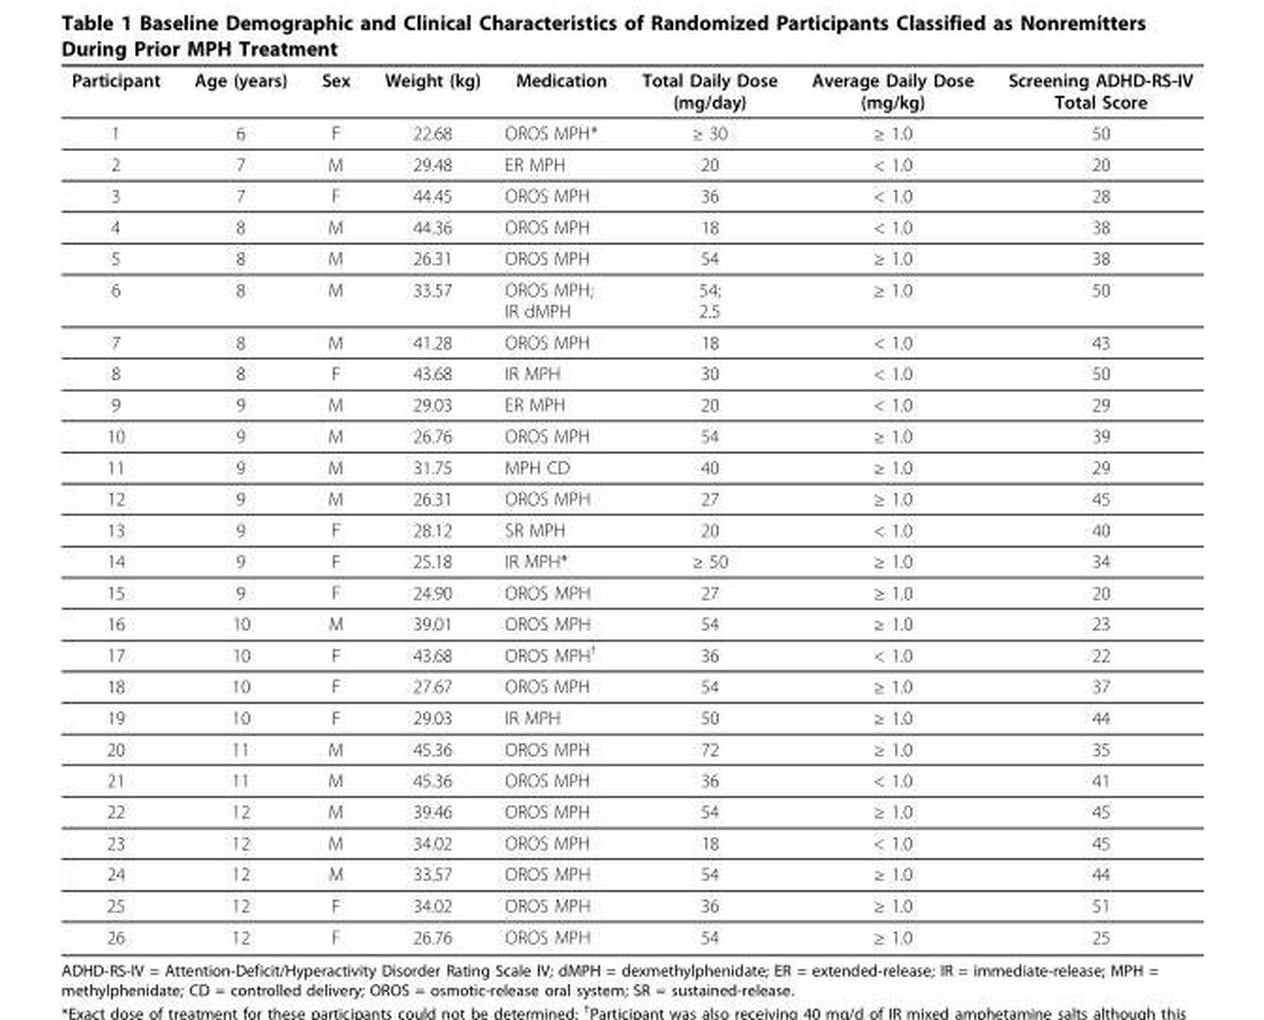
<table><thead><tr><td>Participant</td><td>Age (years)</td><td>Sex</td><td>Weight (kg)</td><td>Medication</td><td>Total Daily Dose (mg/day)</td><td>Average Daily Dose (mg/kg)</td><td>Screening ADHD-RS-IV Total Score</td></tr></thead><tbody><tr><td>1</td><td>6</td><td>F</td><td>22.68</td><td>OROS MPH*</td><td>≥ 30</td><td>≥ 1.0</td><td>50</td></tr><tr><td>2</td><td>7</td><td>M</td><td>29.48</td><td>ER MPH</td><td>20</td><td>&lt; 1.0</td><td>20</td></tr><tr><td>3</td><td>7</td><td>F</td><td>44.45</td><td>OROS MPH</td><td>36</td><td>&lt; 1.0</td><td>28</td></tr><tr><td>4</td><td>8</td><td>M</td><td>44.36</td><td>OROS MPH</td><td>18</td><td>&lt; 1.0</td><td>38</td></tr><tr><td>5</td><td>8</td><td>M</td><td>26.31</td><td>OROS MPH</td><td>54</td><td>≥ 1.0</td><td>38</td></tr><tr><td>6</td><td>8</td><td>M</td><td>33.57</td><td>OROS MPH; IR dMPH</td><td>54; 2.5</td><td>≥ 1.0</td><td>50</td></tr><tr><td>7</td><td>8</td><td>M</td><td>41.28</td><td>OROS MPH</td><td>18</td><td>&lt; 1.0</td><td>43</td></tr><tr><td>8</td><td>8</td><td>F</td><td>43.68</td><td>IR MPH</td><td>30</td><td>&lt; 1.0</td><td>50</td></tr><tr><td>9</td><td>9</td><td>M</td><td>29.03</td><td>ER MPH</td><td>20</td><td>&lt; 1.0</td><td>29</td></tr><tr><td>10</td><td>9</td><td>M</td><td>26.76</td><td>OROS MPH</td><td>54</td><td>≥ 1.0</td><td>39</td></tr><tr><td>11</td><td>9</td><td>M</td><td>31.75</td><td>MPH CD</td><td>40</td><td>≥ 1.0</td><td>29</td></tr><tr><td>12</td><td>9</td><td>M</td><td>26.31</td><td>OROS MPH</td><td>27</td><td>≥ 1.0</td><td>45</td></tr><tr><td>13</td><td>9</td><td>F</td><td>28.12</td><td>SR MPH</td><td>20</td><td>&lt; 1.0</td><td>40</td></tr><tr><td>14</td><td>9</td><td>F</td><td>25.18</td><td>IR MPH*</td><td>≥ 50</td><td>≥ 1.0</td><td>34</td></tr><tr><td>15</td><td>9</td><td>F</td><td>24.90</td><td>OROS MPH</td><td>27</td><td>≥ 1.0</td><td>20</td></tr><tr><td>16</td><td>10</td><td>M</td><td>39.01</td><td>OROS MPH</td><td>54</td><td>≥ 1.0</td><td>23</td></tr><tr><td>17</td><td>10</td><td>F</td><td>43.68</td><td>OROS MPH<sup>†</sup></td><td>36</td><td>&lt; 1.0</td><td>22</td></tr><tr><td>18</td><td>10</td><td>F</td><td>27.67</td><td>OROS MPH</td><td>54</td><td>≥ 1.0</td><td>37</td></tr><tr><td>19</td><td>10</td><td>F</td><td>29.03</td><td>IR MPH</td><td>50</td><td>≥ 1.0</td><td>44</td></tr><tr><td>20</td><td>11</td><td>M</td><td>45.36</td><td>OROS MPH</td><td>72</td><td>≥ 1.0</td><td>35</td></tr><tr><td>21</td><td>11</td><td>M</td><td>45.36</td><td>OROS MPH</td><td>36</td><td>&lt; 1.0</td><td>41</td></tr><tr><td>22</td><td>12</td><td>M</td><td>39.46</td><td>OROS MPH</td><td>54</td><td>≥ 1.0</td><td>45</td></tr><tr><td>23</td><td>12</td><td>M</td><td>34.02</td><td>OROS MPH</td><td>18</td><td>&lt; 1.0</td><td>45</td></tr><tr><td>24</td><td>12</td><td>M</td><td>33.57</td><td>OROS MPH</td><td>54</td><td>≥ 1.0</td><td>44</td></tr><tr><td>25</td><td>12</td><td>F</td><td>34.02</td><td>OROS MPH</td><td>36</td><td>≥ 1.0</td><td>51</td></tr><tr><td>26</td><td>12</td><td>F</td><td>26.76</td><td>OROS MPH</td><td>54</td><td>≥ 1.0</td><td>25</td></tr></tbody></table>